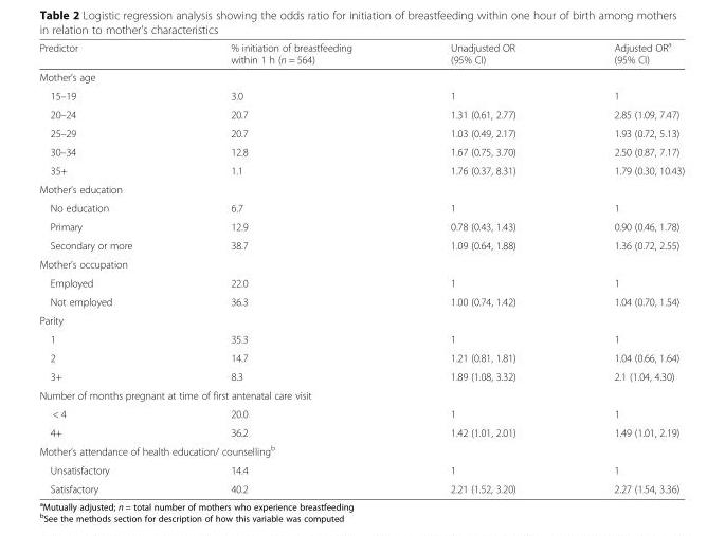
<table><thead><tr><td>Predictor</td><td>% initiation of breastfeeding within 1 h (n = 564)</td><td>Unadjusted OR (95% CI)</td><td>Adjusted OR<sup>a</sup> (95% CI)</td></tr></thead><tbody><tr><td colspan="4">Mother’s age</td></tr><tr><td>15–19</td><td>3.0</td><td>1</td><td>1</td></tr><tr><td>20–24</td><td>20.7</td><td>1.31 (0.61, 2.77)</td><td>2.85 (1.09, 7.47)</td></tr><tr><td>25–29</td><td>20.7</td><td>1.03 (0.49, 2.17)</td><td>1.93 (0.72, 5.13)</td></tr><tr><td>30–34</td><td>12.8</td><td>1.67 (0.75, 3.70)</td><td>2.50 (0.87, 7.17)</td></tr><tr><td>35+</td><td>1.1</td><td>1.76 (0.37, 8.31)</td><td>1.79 (0.30, 10.43)</td></tr><tr><td colspan="4">Mother’s education</td></tr><tr><td>No education</td><td>6.7</td><td>1</td><td>1</td></tr><tr><td>Primary</td><td>12.9</td><td>0.78 (0.43, 1.43)</td><td>0.90 (0.46, 1.78)</td></tr><tr><td>Secondary or more</td><td>38.7</td><td>1.09 (0.64, 1.88)</td><td>1.36 (0.72, 2.55)</td></tr><tr><td colspan="4">Mother’s occupation</td></tr><tr><td>Employed</td><td>22.0</td><td>1</td><td>1</td></tr><tr><td>Not employed</td><td>36.3</td><td>1.00 (0.74, 1.42)</td><td>1.04 (0.70, 1.54)</td></tr><tr><td colspan="4">Parity</td></tr><tr><td>1</td><td>35.3</td><td>1</td><td>1</td></tr><tr><td>2</td><td>14.7</td><td>1.21 (0.81, 1.81)</td><td>1.04 (0.66, 1.64)</td></tr><tr><td>3+</td><td>8.3</td><td>1.89 (1.08, 3.32)</td><td>2.1 (1.04, 4.30)</td></tr><tr><td colspan="4">Number of months pregnant at time of first antenatal care visit</td></tr><tr><td>&lt; 4</td><td>20.0</td><td>1</td><td>1</td></tr><tr><td>4+</td><td>36.2</td><td>1.42 (1.01, 2.01)</td><td>1.49 (1.01, 2.19)</td></tr><tr><td colspan="4">Mother’s attendance of health education/ counselling<sup>b</sup></td></tr><tr><td>Unsatisfactory</td><td>14.4</td><td>1</td><td>1</td></tr><tr><td>Satisfactory</td><td>40.2</td><td>2.21 (1.52, 3.20)</td><td>2.27 (1.54, 3.36)</td></tr></tbody></table>